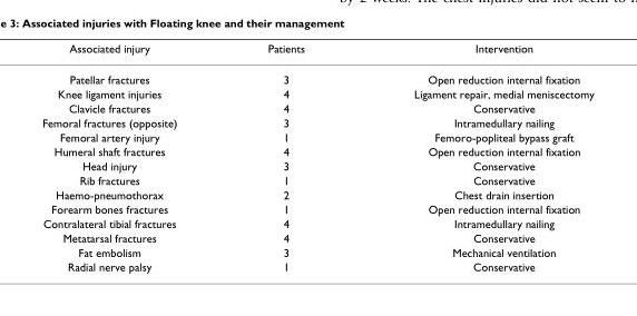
<table><thead><tr><td>Associated injury</td><td>Patients</td><td>Intervention</td></tr></thead><tbody><tr><td>Patellar fractures</td><td>3</td><td>Open reduction internal fixation</td></tr><tr><td>Knee ligament injuries</td><td>4</td><td>Ligament repair, medial meniscectomy</td></tr><tr><td>Clavicle fractures</td><td>4</td><td>Conservative</td></tr><tr><td>Femoral fractures (opposite)</td><td>3</td><td>Intramedullary nailing</td></tr><tr><td>Femoral artery injury</td><td>1</td><td>Femoro-popliteal bypass graft</td></tr><tr><td>Humeral shaft fractures</td><td>4</td><td>Open reduction internal fixation</td></tr><tr><td>Head injury</td><td>3</td><td>Conservative</td></tr><tr><td>Rib fractures</td><td>1</td><td>Conservative</td></tr><tr><td>Haemo-pneumothorax</td><td>2</td><td>Chest drain insertion</td></tr><tr><td>Forearm bones fractures</td><td>1</td><td>Open reduction internal fixation</td></tr><tr><td>Contralateral tibial fractures</td><td>4</td><td>Intramedullary nailing</td></tr><tr><td>Metatarsal fractures</td><td>4</td><td>Conservative</td></tr><tr><td>Fat embolism</td><td>3</td><td>Mechanical ventilation</td></tr><tr><td>Radial nerve palsy</td><td>1</td><td>Conservative</td></tr></tbody></table>